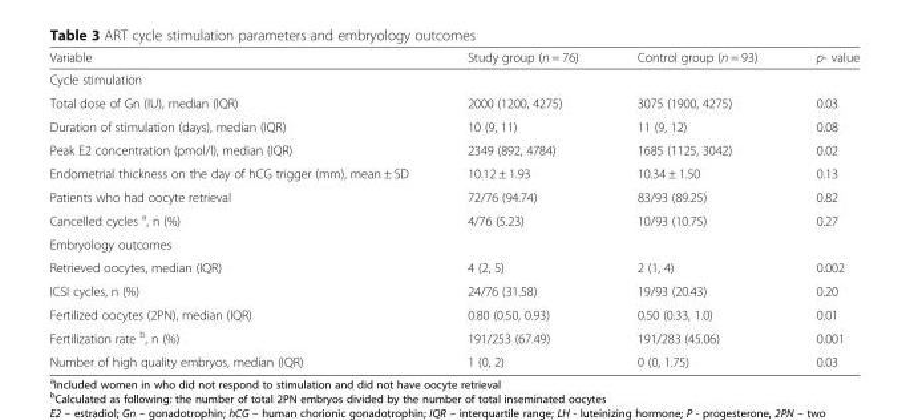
<table><thead><tr><td>Variable</td><td>Study group (n = 76)</td><td>Control group (n = 93)</td><td>p- value</td></tr></thead><tbody><tr><td colspan="4">Cycle stimulation</td></tr><tr><td>Total dose of Gn (IU), median (IQR)</td><td>2000 (1200, 4275)</td><td>3075 (1900, 4275)</td><td>0.03</td></tr><tr><td>Duration of stimulation (days), median (IQR)</td><td>10 (9, 11)</td><td>11 (9, 12)</td><td>0.08</td></tr><tr><td>Peak E2 concentration (pmol/l), median (IQR)</td><td>2349 (892, 4784)</td><td>1685 (1125, 3042)</td><td>0.02</td></tr><tr><td>Endometrial thickness on the day of hCG trigger (mm), mean ± SD</td><td>10.12 ± 1.93</td><td>10.34 ± 1.50</td><td>0.13</td></tr><tr><td>Patients who had oocyte retrieval</td><td>72/76 (94.74)</td><td>83/93 (89.25)</td><td>0.82</td></tr><tr><td>Cancelled cycles <sup>a</sup>, n (%)</td><td>4/76 (5.23)</td><td>10/93 (10.75)</td><td>0.27</td></tr><tr><td colspan="4">Embryology outcomes</td></tr><tr><td>Retrieved oocytes, median (IQR)</td><td>4 (2, 5)</td><td>2 (1, 4)</td><td>0.002</td></tr><tr><td>ICSI cycles, n (%)</td><td>24/76 (31.58)</td><td>19/93 (20.43)</td><td>0.20</td></tr><tr><td>Fertilized oocytes (2PN), median (IQR)</td><td>0.80 (0.50, 0.93)</td><td>0.50 (0.33, 1.0)</td><td>0.01</td></tr><tr><td>Fertilization rate <sup>b</sup>, n (%)</td><td>191/253 (67.49)</td><td>191/283 (45.06)</td><td>0.001</td></tr><tr><td>Number of high quality embryos, median (IQR)</td><td>1 (0, 2)</td><td>0 (0, 1.75)</td><td>0.03</td></tr></tbody></table>